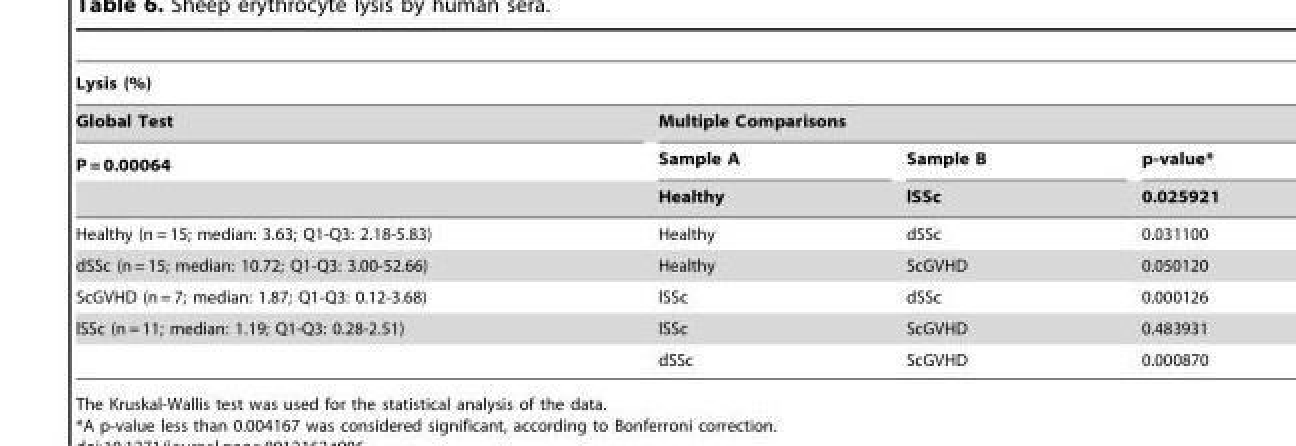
<table><thead><tr><td colspan="4">Lysis (%)</td></tr><tr><td rowspan="3">Global Test P = 0.00064</td><td colspan="3">Multiple Comparisons</td></tr><tr><td rowspan="2">Sample A Healthy</td><td rowspan="2">Sample B lSSc</td><td rowspan="2">p-value* 0.025921</td></tr><tr></tr></thead><tbody><tr><td>Healthy (n = 15; median: 3.63; Q1-Q3: 2.18-5.83)</td><td>Healthy</td><td>dSSc</td><td>0.031100</td></tr><tr><td>dSSc (n = 15; median: 10.72; Q1-Q3: 3.00-52.66)</td><td>Healthy</td><td>ScGVHD</td><td>0.050120</td></tr><tr><td>ScGVHD (n = 7; median: 1.87; Q1-Q3: 0.12-3.68)</td><td>lSSc</td><td>dSSc</td><td>0.000126</td></tr><tr><td rowspan="2">lSSc (n = 11; median: 1.19; Q1-Q3: 0.28-2.51)</td><td>lSSc</td><td>ScGVHD</td><td>0.483931</td></tr><tr><td>dSSc</td><td>ScGVHD</td><td>0.000870</td></tr></tbody></table>